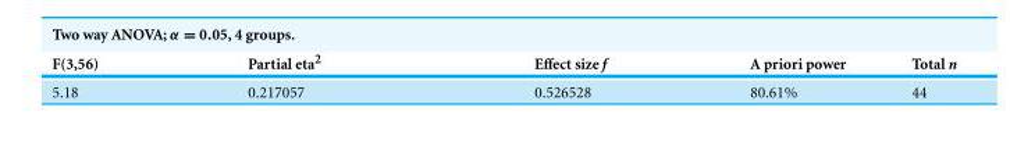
<table><thead><tr><td>F(3,56)</td><td>Partial eta<sup>2</sup></td><td>Effect size f</td><td>A priori power</td><td>Total n</td></tr></thead><tbody><tr><td>5.18</td><td>0.217057</td><td>0.526528</td><td>80.61%</td><td>44</td></tr></tbody></table>